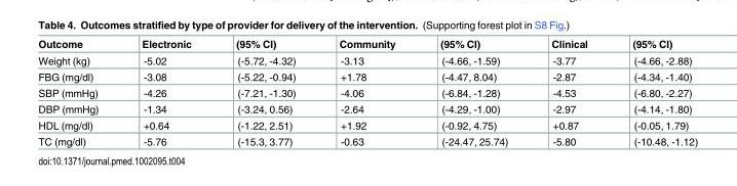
<table><thead><tr><td>Outcome</td><td>Electronic</td><td>(95% CI)</td><td>Community</td><td>(95% CI)</td><td>Clinical</td><td>(95% CI)</td></tr></thead><tbody><tr><td>Weight (kg)</td><td>-5.02</td><td>(-5.72, -4.32)</td><td>-3.13</td><td>(-4.66, -1.59)</td><td>-3.77</td><td>(-4.66, -2.88)</td></tr><tr><td>FBG (mg/dl)</td><td>-3.08</td><td>(-5.22, -0.94)</td><td>+1.78</td><td>(-4.47, 8.04)</td><td>-2.87</td><td>(-4.34, -1.40)</td></tr><tr><td>SBP (mmHg)</td><td>-4.26</td><td>(-7.21, -1.30)</td><td>-4.06</td><td>(-6.84, -1.28)</td><td>-4.53</td><td>(-6.80, -2.27)</td></tr><tr><td>DBP (mmHg)</td><td>-1.34</td><td>(-3.24, 0.56)</td><td>-2.64</td><td>(-4.29, -1.00)</td><td>-2.97</td><td>(-4.14, -1.80)</td></tr><tr><td>HDL (mg/dl)</td><td>+0.64</td><td>(-1.22, 2.51)</td><td>+1.92</td><td>(-0.92, 4.75)</td><td>+0.87</td><td>(-0.05, 1.79)</td></tr><tr><td>TC (mg/dl)</td><td>-5.76</td><td>(-15.3, 3.77)</td><td>-0.63</td><td>(-24.47, 25.74)</td><td>-5.80</td><td>(-10.48, -1.12)</td></tr></tbody></table>